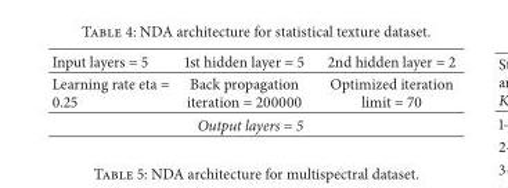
<table><thead><tr><td>Input layers = 5</td><td>1st hidden layer = 5</td><td>2nd hidden layer = 2</td></tr></thead><tbody><tr><td>Learning rate eta = 0.25</td><td>Back propagation iteration = 200000</td><td>Optimized iteration limit = 70</td></tr><tr><td colspan="3">Output layers = 5</td></tr></tbody></table>